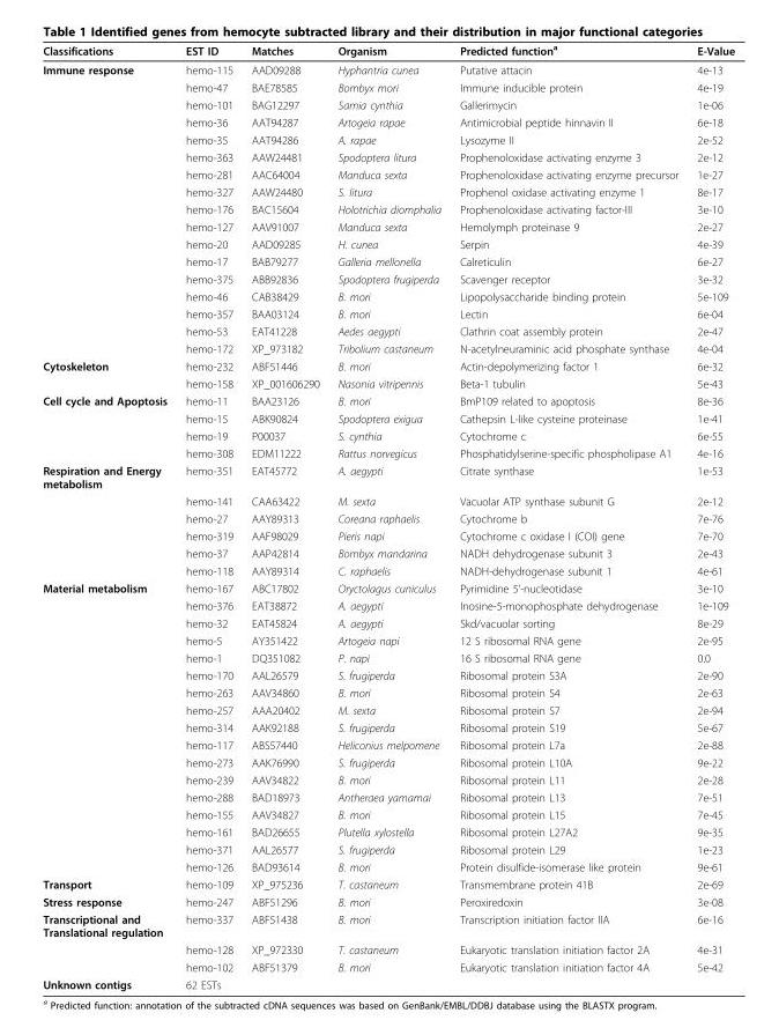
<table><thead><tr><td>Classifications</td><td>EST ID</td><td>Matches</td><td>Organism</td><td>Predicted function<sup>a</sup></td><td>E-Value</td></tr></thead><tbody><tr><td rowspan="17">Immune response</td><td>hemo-115</td><td>AAD09288</td><td>Hyphantria cunea</td><td>Putative attacin</td><td>4e-13</td></tr><tr><td>hemo-47</td><td>BAE78585</td><td>Bombyx mori</td><td>Immune inducible protein</td><td>4e-19</td></tr><tr><td>hemo-101</td><td>BAG12297</td><td>Samia cynthia</td><td>Gallerimycin</td><td>1e-06</td></tr><tr><td>hemo-36</td><td>AAT94287</td><td>Artogeia rapae</td><td>Antimicrobial peptide hinnavin II</td><td>6e-18</td></tr><tr><td>hemo-35</td><td>AAT94286</td><td>A. rapae</td><td>Lysozyme II</td><td>2e-52</td></tr><tr><td>hemo-363</td><td>AAW24481</td><td>Spodoptera litura</td><td>Prophenoloxidase activating enzyme 3</td><td>2e-12</td></tr><tr><td>hemo-281</td><td>AAC64004</td><td>Manduca sexta</td><td>Prophenoloxidase activating enzyme precursor</td><td>1e-27</td></tr><tr><td>hemo-327</td><td>AAW24480</td><td>S. litura</td><td>Prophenol oxidase activating enzyme 1</td><td>8e-17</td></tr><tr><td>hemo-176</td><td>BAC15604</td><td>Holotrichia diomphalia</td><td>Prophenoloxidase activating factor-III</td><td>3e-10</td></tr><tr><td>hemo-127</td><td>AAV91007</td><td>Manduca sexta</td><td>Hemolymph proteinase 9</td><td>2e-27</td></tr><tr><td>hemo-20</td><td>AAD09285</td><td>H. cunea</td><td>Serpin</td><td>4e-39</td></tr><tr><td>hemo-17</td><td>BAB79277</td><td>Galleria mellonella</td><td>Calreticulin</td><td>6e-27</td></tr><tr><td>hemo-375</td><td>ABB92836</td><td>Spodoptera frugiperda</td><td>Scavenger receptor</td><td>3e-32</td></tr><tr><td>hemo-46</td><td>CAB38429</td><td>B. mori</td><td>Lipopolysaccharide binding protein</td><td>5e-109</td></tr><tr><td>hemo-357</td><td>BAA03124</td><td>B. mori</td><td>Lectin</td><td>6e-04</td></tr><tr><td>hemo-53</td><td>EAT41228</td><td>Aedes aegypti</td><td>Clathrin coat assembly protein</td><td>2e-47</td></tr><tr><td>hemo-172</td><td>XP_973182</td><td>Tribolium castaneum</td><td>N-acetylneuraminic acid phosphate synthase</td><td>4e-04</td></tr><tr><td rowspan="2">Cytoskeleton</td><td>hemo-232</td><td>ABF51446</td><td>B. mori</td><td>Actin-depolymerizing factor 1</td><td>6e-32</td></tr><tr><td>hemo-158</td><td>XP_001606290</td><td>Nasonia vitripennis</td><td>Beta-1 tubulin</td><td>5e-43</td></tr><tr><td rowspan="4">Cell cycle and Apoptosis</td><td>hemo-11</td><td>BAA23126</td><td>B. mori</td><td>BmP109 related to apoptosis</td><td>8e-36</td></tr><tr><td>hemo-15</td><td>ABK90824</td><td>Spodoptera exigua</td><td>Cathepsin L-like cysteine proteinase</td><td>1e-41</td></tr><tr><td>hemo-19</td><td>P00037</td><td>S. cynthia</td><td>Cytochrome c</td><td>6e-55</td></tr><tr><td>hemo-308</td><td>EDM11222</td><td>Rattus norvegicus</td><td>Phosphatidylserine-specific phospholipase A1</td><td>4e-16</td></tr><tr><td rowspan="6">Respiration and Energy metabolism</td><td>hemo-351</td><td>EAT45772</td><td>A. aegypti</td><td>Citrate synthase</td><td>1e-53</td></tr><tr><td>hemo-141</td><td>CAA63422</td><td>M. sexta</td><td>Vacuolar ATP synthase subunit G</td><td>2e-12</td></tr><tr><td>hemo-27</td><td>AAY89313</td><td>Coreana raphaelis</td><td>Cytochrome b</td><td>7e-76</td></tr><tr><td>hemo-319</td><td>AAF98029</td><td>Pieris napi</td><td>Cytochrome c oxidase I (COI) gene</td><td>7e-70</td></tr><tr><td>hemo-37</td><td>AAP42814</td><td>Bombyx mandarina</td><td>NADH dehydrogenase subunit 3</td><td>2e-43</td></tr><tr><td>hemo-118</td><td>AAY89314</td><td>C. raphaelis</td><td>NADH-dehydrogenase subunit 1</td><td>4e-61</td></tr><tr><td rowspan="17">Material metabolism</td><td>hemo-167</td><td>ABC17802</td><td>Oryctolagus cuniculus</td><td>Pyrimidine 5’-nucleotidase</td><td>3e-10</td></tr><tr><td>hemo-376</td><td>EAT38872</td><td>A. aegypti</td><td>Inosine-5-monophosphate dehydrogenase</td><td>1e-109</td></tr><tr><td>hemo-32</td><td>EAT45824</td><td>A. aegypti</td><td>Skd/vacuolar sorting</td><td>8e-29</td></tr><tr><td>hemo-5</td><td>AY351422</td><td>Artogeia napi</td><td>12 S ribosomal RNA gene</td><td>2e-95</td></tr><tr><td>hemo-1</td><td>DQ351082</td><td>P. napi</td><td>16 S ribosomal RNA gene</td><td>0.0</td></tr><tr><td>hemo-170</td><td>AAL26579</td><td>S. frugiperda</td><td>Ribosomal protein S3A</td><td>2e-90</td></tr><tr><td>hemo-263</td><td>AAV34860</td><td>B. mori</td><td>Ribosomal protein S4</td><td>2e-63</td></tr><tr><td>hemo-257</td><td>AAA20402</td><td>M. sexta</td><td>Ribosomal protein S7</td><td>2e-94</td></tr><tr><td>hemo-314</td><td>AAK92188</td><td>S. frugiperda</td><td>Ribosomal protein S19</td><td>5e-67</td></tr><tr><td>hemo-117</td><td>ABS57440</td><td>Heliconius melpomene</td><td>Ribosomal protein L7a</td><td>2e-88</td></tr><tr><td>hemo-273</td><td>AAK76990</td><td>S. frugiperda</td><td>Ribosomal protein L10A</td><td>9e-22</td></tr><tr><td>hemo-239</td><td>AAV34822</td><td>B. mori</td><td>Ribosomal protein L11</td><td>2e-28</td></tr><tr><td>hemo-288</td><td>BAD18973</td><td>Antheraea yamamai</td><td>Ribosomal protein L13</td><td>7e-51</td></tr><tr><td>hemo-155</td><td>AAV34827</td><td>B. mori</td><td>Ribosomal protein L15</td><td>7e-45</td></tr><tr><td>hemo-161</td><td>BAD26655</td><td>Plutella xylostella</td><td>Ribosomal protein L27A2</td><td>9e-35</td></tr><tr><td>hemo-371</td><td>AAL26577</td><td>S. frugiperda</td><td>Ribosomal protein L29</td><td>1e-23</td></tr><tr><td>hemo-126</td><td>BAD93614</td><td>B. mori</td><td>Protein disulfide-isomerase like protein</td><td>9e-61</td></tr><tr><td>Transport</td><td>hemo-109</td><td>XP_975236</td><td>T. castaneum</td><td>Transmembrane protein 41B</td><td>2e-69</td></tr><tr><td>Stress response</td><td>hemo-247</td><td>ABF51296</td><td>B. mori</td><td>Peroxiredoxin</td><td>3e-08</td></tr><tr><td rowspan="3">Transcriptional and Translational regulation</td><td>hemo-337</td><td>ABF51438</td><td>B. mori</td><td>Transcription initiation factor IIA</td><td>6e-16</td></tr><tr><td>hemo-128</td><td>XP_972330</td><td>T. castaneum</td><td>Eukaryotic translation initiation factor 2A</td><td>4e-31</td></tr><tr><td>hemo-102</td><td>ABF51379</td><td>B. mori</td><td>Eukaryotic translation initiation factor 4A</td><td>5e-42</td></tr><tr><td>Unknown contigs</td><td>62 ESTs</td><td></td><td></td><td></td><td></td></tr></tbody></table>